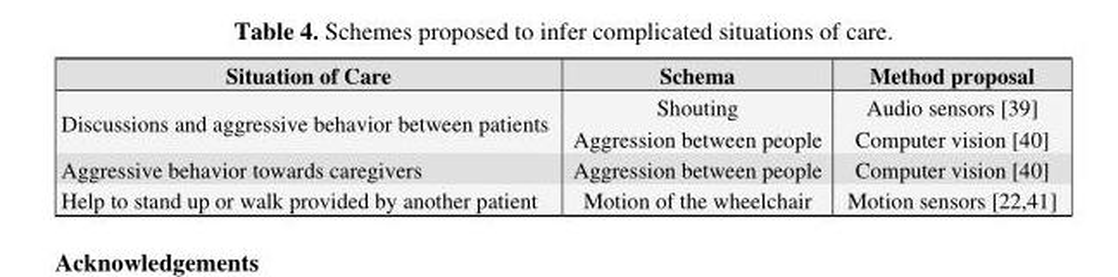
<table><thead><tr><td>Situation of Care</td><td>Schema</td><td>Method proposal</td></tr></thead><tbody><tr><td>Discussions and aggressive behavior between patients</td><td>Shouting Aggression between people</td><td>Audio sensors [39] Computer vision [40]</td></tr><tr><td>Aggressive behavior towards caregivers</td><td>Aggression between people</td><td>Computer vision [40]</td></tr><tr><td>Help to stand up or walk provided by another patient</td><td>Motion of the wheelchair</td><td>Motion sensors [22,41]</td></tr></tbody></table>